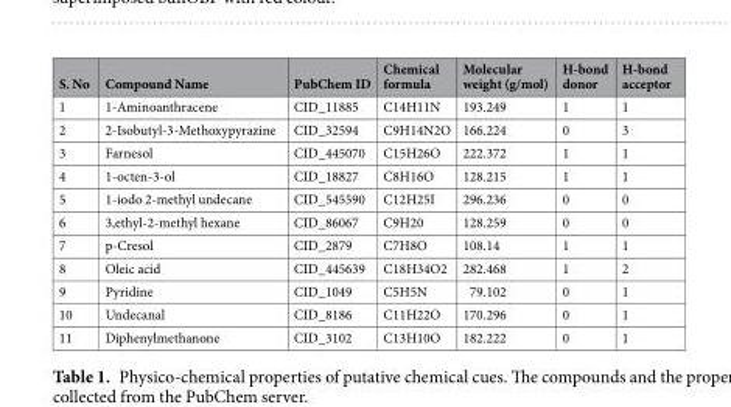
<table><thead><tr><td>S. No</td><td>Compound Name</td><td>PubChem ID</td><td>Chemical formula</td><td>Molecular weight (g/mol)</td><td>H-bond donor</td><td>H-bond acceptor</td></tr></thead><tbody><tr><td>1</td><td>1-Aminoanthracene</td><td>CID_11885</td><td>C14H11N</td><td>193.249</td><td>1</td><td>1</td></tr><tr><td>2</td><td>2-Isobutyl-3-Methoxypyrazine</td><td>CID_32594</td><td>C9H14N2O</td><td>166.224</td><td>0</td><td>3</td></tr><tr><td>3</td><td>Farnesol</td><td>CID_445070</td><td>C15H26O</td><td>222.372</td><td>1</td><td>1</td></tr><tr><td>4</td><td>1-octen-3-ol</td><td>CID_18827</td><td>C8H16O</td><td>128.215</td><td>1</td><td>1</td></tr><tr><td>5</td><td>1-iodo 2-methyl undecane</td><td>CID_545590</td><td>C12H25I</td><td>296.236</td><td>0</td><td>0</td></tr><tr><td>6</td><td>3,ethyl-2-methyl hexane</td><td>CID_86067</td><td>C9H20</td><td>128.259</td><td>0</td><td>0</td></tr><tr><td>7</td><td>p-Cresol</td><td>CID_2879</td><td>C7H8O</td><td>108.14</td><td>1</td><td>1</td></tr><tr><td>8</td><td>Oleic acid</td><td>CID_445639</td><td>C18H34O2</td><td>282.468</td><td>1</td><td>2</td></tr><tr><td>9</td><td>Pyridine</td><td>CID_1049</td><td>C5H5N</td><td>79.102</td><td>0</td><td>1</td></tr><tr><td>10</td><td>Undecanal</td><td>CID_8186</td><td>C11H22O</td><td>170.296</td><td>0</td><td>1</td></tr><tr><td>11</td><td>Diphenylmethanone</td><td>CID_3102</td><td>C13H10O</td><td>182.222</td><td>0</td><td>1</td></tr></tbody></table>